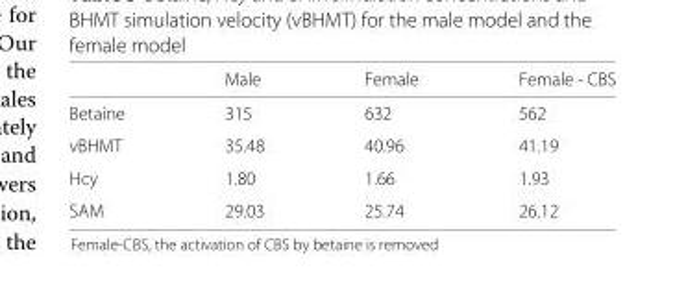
<table><thead><tr><td></td><td>Male</td><td>Female</td><td>Female - CBS</td></tr></thead><tbody><tr><td>Betaine</td><td>315</td><td>632</td><td>562</td></tr><tr><td>vBHMT</td><td>35.48</td><td>40.96</td><td>41.19</td></tr><tr><td>Hcy</td><td>1.80</td><td>1.66</td><td>1.93</td></tr><tr><td>SAM</td><td>29.03</td><td>25.74</td><td>26.12</td></tr></tbody></table>